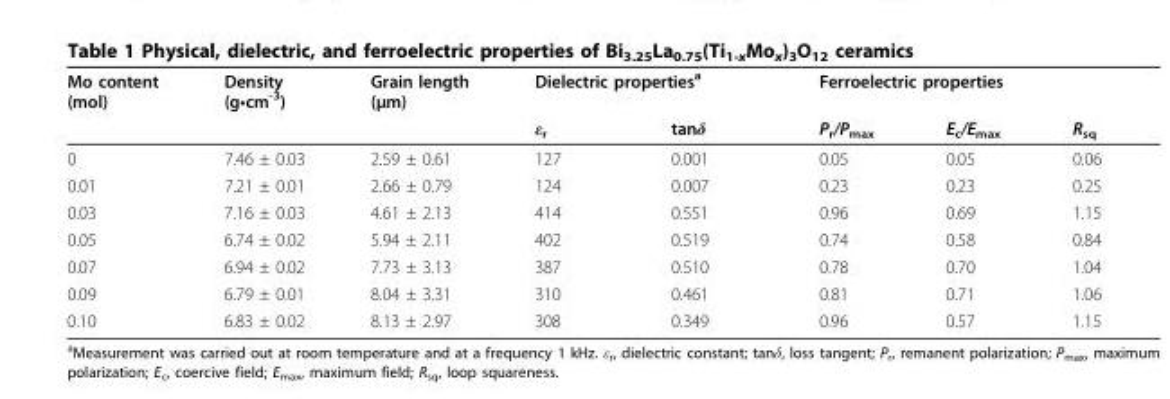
<table><thead><tr><td rowspan="2">Mo content (mol)</td><td rowspan="2">Density (g•cm<sup>-3</sup>)</td><td rowspan="2">Grain length (μm)</td><td colspan="2">Dielectric properties<sup>a</sup></td><td colspan="3">Ferroelectric properties</td></tr><tr><td>ε<sub>r</sub></td><td>tanδ</td><td>P<sub>r</sub>/P<sub>max</sub></td><td>E<sub>c</sub>/E<sub>max</sub></td><td>R<sub>sq</sub></td></tr></thead><tbody><tr><td>0</td><td>7.46 ± 0.03</td><td>2.59 ± 0.61</td><td>127</td><td>0.001</td><td>0.05</td><td>0.05</td><td>0.06</td></tr><tr><td>0.01</td><td>7.21 ± 0.01</td><td>2.66 ± 0.79</td><td>124</td><td>0.007</td><td>0.23</td><td>0.23</td><td>0.25</td></tr><tr><td>0.03</td><td>7.16 ± 0.03</td><td>4.61 ± 2.13</td><td>414</td><td>0.551</td><td>0.96</td><td>0.69</td><td>1.15</td></tr><tr><td>0.05</td><td>6.74 ± 0.02</td><td>5.94 ± 2.11</td><td>402</td><td>0.519</td><td>0.74</td><td>0.58</td><td>0.84</td></tr><tr><td>0.07</td><td>6.94 ± 0.02</td><td>7.73 ± 3.13</td><td>387</td><td>0.510</td><td>0.78</td><td>0.70</td><td>1.04</td></tr><tr><td>0.09</td><td>6.79 ± 0.01</td><td>8.04 ± 3.31</td><td>310</td><td>0.461</td><td>0.81</td><td>0.71</td><td>1.06</td></tr><tr><td>0.10</td><td>6.83 ± 0.02</td><td>8.13 ± 2.97</td><td>308</td><td>0.349</td><td>0.96</td><td>0.57</td><td>1.15</td></tr></tbody></table>